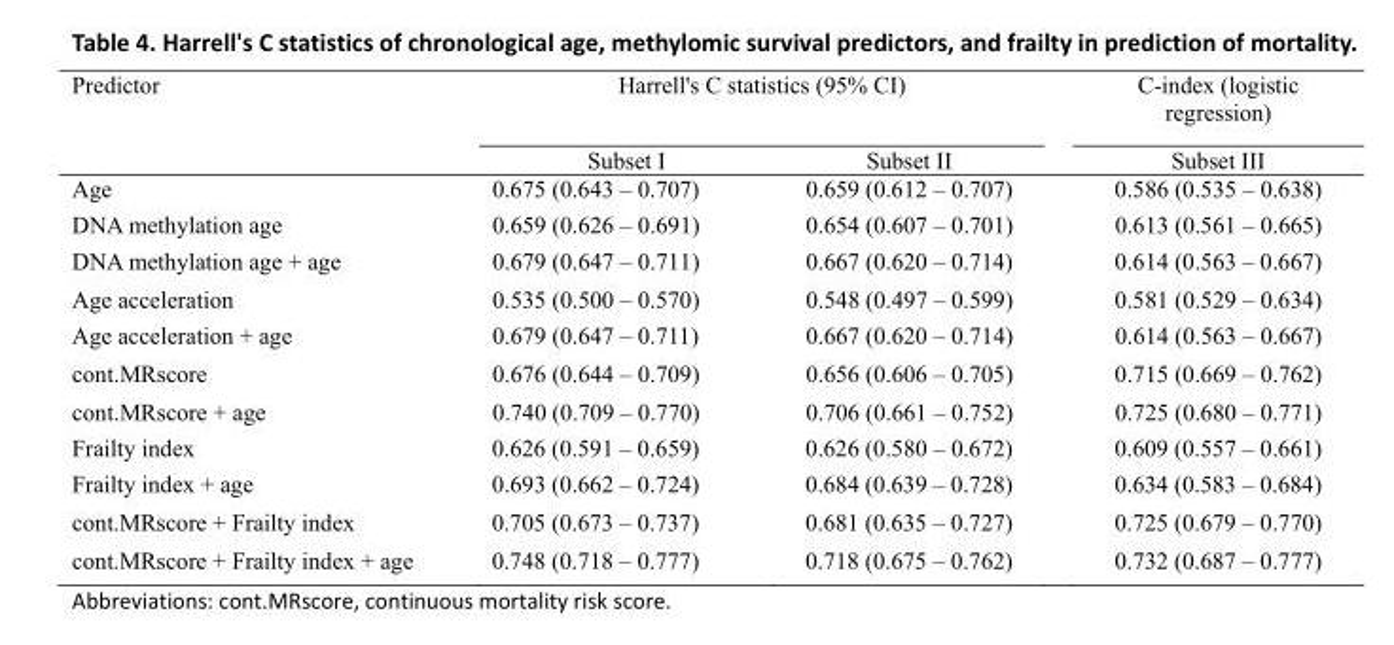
<table><tbody><tr><td rowspan="2">Predictor</td><td colspan="2">Harrell&#x27;s C statistics (95% CI)</td><td>C-index (logistic regression)</td></tr><tr><td>Subset I</td><td>Subset II</td><td>Subset III</td></tr><tr><td>Age</td><td>0.675 (0.643 – 0.707)</td><td>0.659 (0.612 – 0.707)</td><td>0.586 (0.535 – 0.638)</td></tr><tr><td>DNA methylation age</td><td>0.659 (0.626 – 0.691)</td><td>0.654 (0.607 – 0.701)</td><td>0.613 (0.561 – 0.665)</td></tr><tr><td>DNA methylation age + age</td><td>0.679 (0.647 – 0.711)</td><td>0.667 (0.620 – 0.714)</td><td>0.614 (0.563 – 0.667)</td></tr><tr><td>Age acceleration</td><td>0.535 (0.500 – 0.570)</td><td>0.548 (0.497 – 0.599)</td><td>0.581 (0.529 – 0.634)</td></tr><tr><td>Age acceleration + age</td><td>0.679 (0.647 – 0.711)</td><td>0.667 (0.620 – 0.714)</td><td>0.614 (0.563 – 0.667)</td></tr><tr><td>cont.MRscore</td><td>0.676 (0.644 – 0.709)</td><td>0.656 (0.606 – 0.705)</td><td>0.715 (0.669 – 0.762)</td></tr><tr><td>cont.MRscore + age</td><td>0.740 (0.709 – 0.770)</td><td>0.706 (0.661 – 0.752)</td><td>0.725 (0.680 – 0.771)</td></tr><tr><td>Frailty index</td><td>0.626 (0.591 – 0.659)</td><td>0.626 (0.580 – 0.672)</td><td>0.609 (0.557 – 0.661)</td></tr><tr><td>Frailty index + age</td><td>0.693 (0.662 – 0.724)</td><td>0.684 (0.639 – 0.728)</td><td>0.634 (0.583 – 0.684)</td></tr><tr><td>cont.MRscore + Frailty index</td><td>0.705 (0.673 – 0.737)</td><td>0.681 (0.635 – 0.727)</td><td>0.725 (0.679 – 0.770)</td></tr><tr><td>cont.MRscore + Frailty index + age</td><td>0.748 (0.718 – 0.777)</td><td>0.718 (0.675 – 0.762)</td><td>0.732 (0.687 – 0.777)</td></tr></tbody></table>